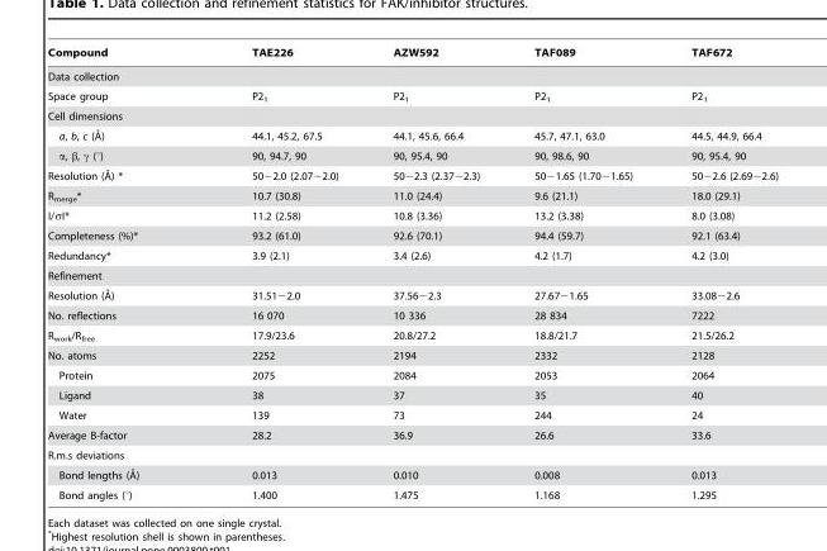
<table><thead><tr><td>Compound</td><td>TAE226</td><td>AZW592</td><td>TAF089</td><td>TAF672</td></tr></thead><tbody><tr><td colspan="5">Data collection</td></tr><tr><td>Space group</td><td>P2<sub>1</sub></td><td>P2<sub>1</sub></td><td>P2<sub>1</sub></td><td>P2<sub>1</sub></td></tr><tr><td colspan="5">Cell dimensions</td></tr><tr><td>a, b, c (A˚)</td><td>44.1, 45.2, 67.5</td><td>44.1, 45.6, 66.4</td><td>45.7, 47.1, 63.0</td><td>44.5, 44.9, 66.4</td></tr><tr><td>α, β, γ (°)</td><td>90, 94.7, 90</td><td>90, 95.4, 90</td><td>90, 98.6, 90</td><td>90, 95.4, 90</td></tr><tr><td>Resolution (A˚) *</td><td>50−2.0 (2.07−2.0)</td><td>50−2.3 (2.37−2.3)</td><td>50−1.65 (1.70−1.65)</td><td>50−2.6 (2.69−2.6)</td></tr><tr><td>R<sub>merge</sub>*</td><td>10.7 (30.8)</td><td>11.0 (24.4)</td><td>9.6 (21.1)</td><td>18.0 (29.1)</td></tr><tr><td>I/σI*</td><td>11.2 (2.58)</td><td>10.8 (3.36)</td><td>13.2 (3.38)</td><td>8.0 (3.08)</td></tr><tr><td>Completeness (%)*</td><td>93.2 (61.0)</td><td>92.6 (70.1)</td><td>94.4 (59.7)</td><td>92.1 (63.4)</td></tr><tr><td>Redundancy*</td><td>3.9 (2.1)</td><td>3.4 (2.6)</td><td>4.2 (1.7)</td><td>4.2 (3.0)</td></tr><tr><td colspan="5">Refinement</td></tr><tr><td>Resolution (A˚)</td><td>31.51−2.0</td><td>37.56−2.3</td><td>27.67−1.65</td><td>33.08−2.6</td></tr><tr><td>No. reflections</td><td>16 070</td><td>10 336</td><td>28 834</td><td>7222</td></tr><tr><td>R<sub>work</sub>/R<sub>free</sub></td><td>17.9/23.6</td><td>20.8/27.2</td><td>18.8/21.7</td><td>21.5/26.2</td></tr><tr><td>No. atoms</td><td>2252</td><td>2194</td><td>2332</td><td>2128</td></tr><tr><td>Protein</td><td>2075</td><td>2084</td><td>2053</td><td>2064</td></tr><tr><td>Ligand</td><td>38</td><td>37</td><td>35</td><td>40</td></tr><tr><td>Water</td><td>139</td><td>73</td><td>244</td><td>24</td></tr><tr><td>Average B-factor</td><td>28.2</td><td>36.9</td><td>26.6</td><td>33.6</td></tr><tr><td colspan="5">R.m.s deviations</td></tr><tr><td>Bond lengths (A˚)</td><td>0.013</td><td>0.010</td><td>0.008</td><td>0.013</td></tr><tr><td>Bond angles (°)</td><td>1.400</td><td>1.475</td><td>1.168</td><td>1.295</td></tr></tbody></table>